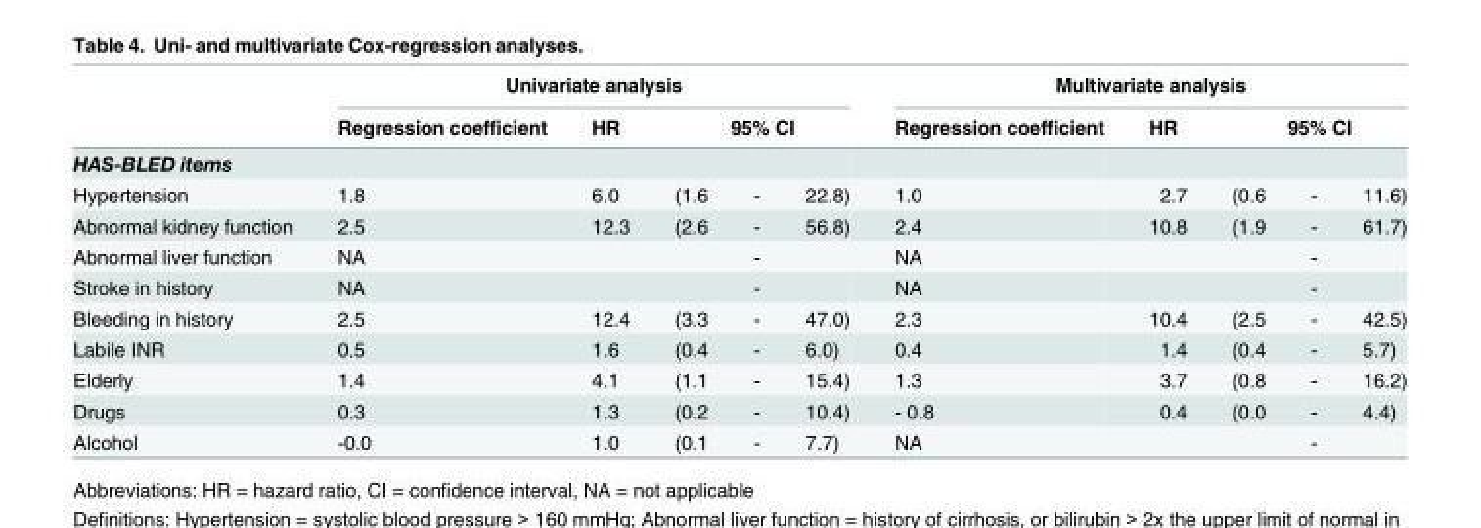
<table><thead><tr><td rowspan="3">HAS-BLED items</td><td colspan="5">Univariate analysis</td><td colspan="5">Multivariate analysis</td></tr><tr><td rowspan="2">Regression coefficient</td><td rowspan="2">HR</td><td colspan="3">95% CI</td><td rowspan="2">Regression coefficient</td><td rowspan="2">HR</td><td colspan="3">95% CI</td></tr><tr><td></td><td></td><td></td><td></td><td></td><td></td></tr></thead><tbody><tr><td>Hypertension</td><td>1.8</td><td>6.0</td><td>(1.6</td><td>-</td><td>22.8)</td><td>1.0</td><td>2.7</td><td>(0.6</td><td>-</td><td>11.6)</td></tr><tr><td>Abnormal kidney function</td><td>2.5</td><td>12.3</td><td>(2.6</td><td>-</td><td>56.8)</td><td>2.4</td><td>10.8</td><td>(1.9</td><td>-</td><td>61.7)</td></tr><tr><td>Abnormal liver function</td><td>NA</td><td></td><td></td><td>-</td><td></td><td>NA</td><td></td><td></td><td>-</td><td></td></tr><tr><td>Stroke in history</td><td>NA</td><td></td><td></td><td>-</td><td></td><td>NA</td><td></td><td></td><td>-</td><td></td></tr><tr><td>Bleeding in history</td><td>2.5</td><td>12.4</td><td>(3.3</td><td>-</td><td>47.0)</td><td>2.3</td><td>10.4</td><td>(2.5</td><td>-</td><td>42.5)</td></tr><tr><td>Labile INR</td><td>0.5</td><td>1.6</td><td>(0.4</td><td>-</td><td>6.0)</td><td>0.4</td><td>1.4</td><td>(0.4</td><td>-</td><td>5.7)</td></tr><tr><td>Elderly</td><td>1.4</td><td>4.1</td><td>(1.1</td><td>-</td><td>15.4)</td><td>1.3</td><td>3.7</td><td>(0.8</td><td>-</td><td>16.2)</td></tr><tr><td>Drugs</td><td>0.3</td><td>1.3</td><td>(0.2</td><td>-</td><td>10.4)</td><td>- 0.8</td><td>0.4</td><td>(0.0</td><td>-</td><td>4.4)</td></tr><tr><td>Alcohol</td><td>-0.0</td><td>1.0</td><td>(0.1</td><td>-</td><td>7.7)</td><td>NA</td><td></td><td></td><td>-</td><td></td></tr></tbody></table>